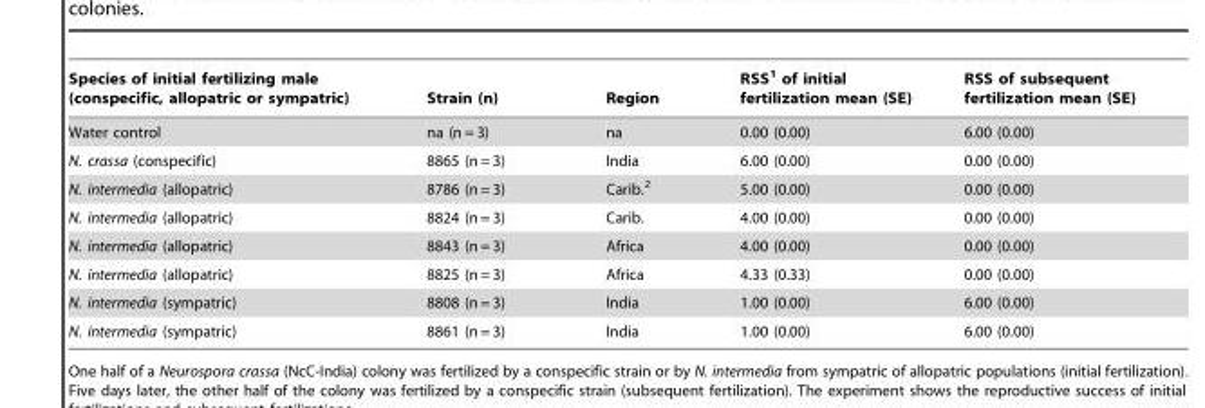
<table><thead><tr><td>Species of initial fertilizing male (conspecific, allopatric or sympatric)</td><td>Strain (n)</td><td>Region</td><td>RSS<sup>1</sup> of initial fertilization mean (SE)</td><td>RSS of subsequent fertilization mean (SE)</td></tr></thead><tbody><tr><td>Water control</td><td>na (n = 3)</td><td>na</td><td>0.00 (0.00)</td><td>6.00 (0.00)</td></tr><tr><td>N. crassa (conspecific)</td><td>8865 (n = 3)</td><td>India</td><td>6.00 (0.00)</td><td>0.00 (0.00)</td></tr><tr><td>N. intermedia (allopatric)</td><td>8786 (n = 3)</td><td>Carib.<sup>2</sup></td><td>5.00 (0.00)</td><td>0.00 (0.00)</td></tr><tr><td>N. intermedia (allopatric)</td><td>8824 (n = 3)</td><td>Carib.</td><td>4.00 (0.00)</td><td>0.00 (0.00)</td></tr><tr><td>N. intermedia (allopatric)</td><td>8843 (n = 3)</td><td>Africa</td><td>4.00 (0.00)</td><td>0.00 (0.00)</td></tr><tr><td>N. intermedia (allopatric)</td><td>8825 (n = 3)</td><td>Africa</td><td>4.33 (0.33)</td><td>0.00 (0.00)</td></tr><tr><td>N. intermedia (sympatric)</td><td>8808 (n = 3)</td><td>India</td><td>1.00 (0.00)</td><td>6.00 (0.00)</td></tr><tr><td>N. intermedia (sympatric)</td><td>8861 (n = 3)</td><td>India</td><td>1.00 (0.00)</td><td>6.00 (0.00)</td></tr></tbody></table>